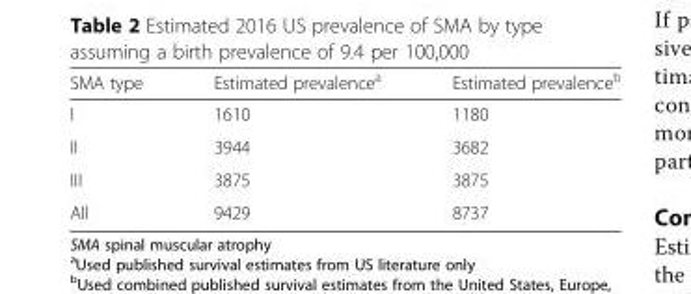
<table><thead><tr><td>SMA type</td><td>Estimated prevalence<sup>a</sup></td><td>Estimated prevalence<sup>b</sup></td></tr></thead><tbody><tr><td>I</td><td>1610</td><td>1180</td></tr><tr><td>II</td><td>3944</td><td>3682</td></tr><tr><td>III</td><td>3875</td><td>3875</td></tr><tr><td>All</td><td>9429</td><td>8737</td></tr></tbody></table>